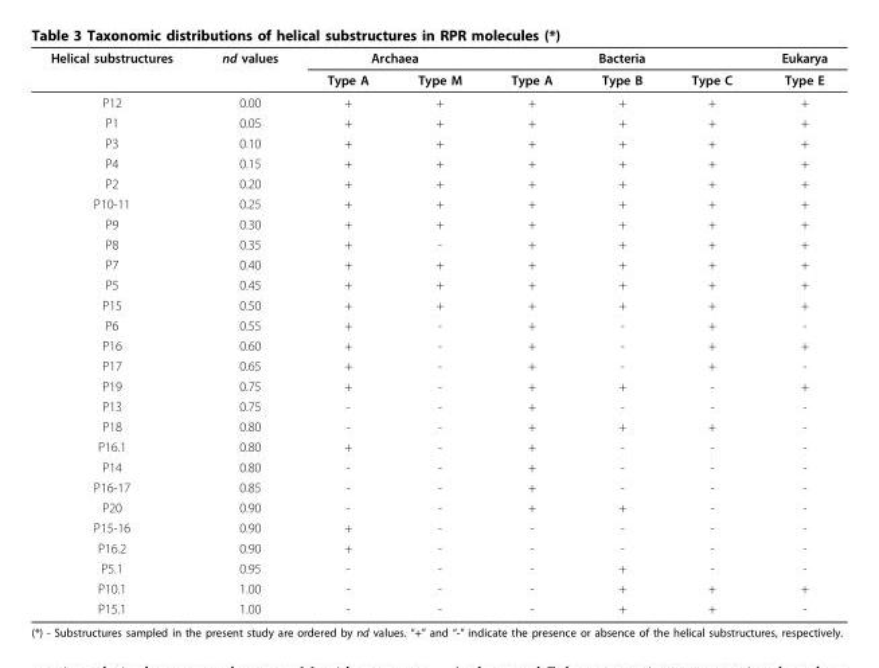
<table><thead><tr><td rowspan="2">Helical substructures</td><td rowspan="2">nd values</td><td colspan="2">Archaea</td><td colspan="3">Bacteria</td><td rowspan="2">Eukarya Type E</td></tr><tr><td>Type A</td><td>Type M</td><td>Type A</td><td>Type B</td><td>Type C</td></tr></thead><tbody><tr><td>P12</td><td>0.00</td><td>+</td><td>+</td><td>+</td><td>+</td><td>+</td><td>+</td></tr><tr><td>P1</td><td>0.05</td><td>+</td><td>+</td><td>+</td><td>+</td><td>+</td><td>+</td></tr><tr><td>P3</td><td>0.10</td><td>+</td><td>+</td><td>+</td><td>+</td><td>+</td><td>+</td></tr><tr><td>P4</td><td>0.15</td><td>+</td><td>+</td><td>+</td><td>+</td><td>+</td><td>+</td></tr><tr><td>P2</td><td>0.20</td><td>+</td><td>+</td><td>+</td><td>+</td><td>+</td><td>+</td></tr><tr><td>P10-11</td><td>0.25</td><td>+</td><td>+</td><td>+</td><td>+</td><td>+</td><td>+</td></tr><tr><td>P9</td><td>0.30</td><td>+</td><td>+</td><td>+</td><td>+</td><td>+</td><td>+</td></tr><tr><td>P8</td><td>0.35</td><td>+</td><td>-</td><td>+</td><td>+</td><td>+</td><td>+</td></tr><tr><td>P7</td><td>0.40</td><td>+</td><td>+</td><td>+</td><td>+</td><td>+</td><td>+</td></tr><tr><td>P5</td><td>0.45</td><td>+</td><td>+</td><td>+</td><td>+</td><td>+</td><td>+</td></tr><tr><td>P15</td><td>0.50</td><td>+</td><td>+</td><td>+</td><td>+</td><td>+</td><td>+</td></tr><tr><td>P6</td><td>0.55</td><td>+</td><td>-</td><td>+</td><td>-</td><td>+</td><td>-</td></tr><tr><td>P16</td><td>0.60</td><td>+</td><td>-</td><td>+</td><td>-</td><td>+</td><td>+</td></tr><tr><td>P17</td><td>0.65</td><td>+</td><td>-</td><td>+</td><td>-</td><td>+</td><td>-</td></tr><tr><td>P19</td><td>0.75</td><td>+</td><td>-</td><td>+</td><td>+</td><td>-</td><td>+</td></tr><tr><td>P13</td><td>0.75</td><td>-</td><td>-</td><td>+</td><td>-</td><td>-</td><td>-</td></tr><tr><td>P18</td><td>0.80</td><td>-</td><td>-</td><td>+</td><td>+</td><td>+</td><td>-</td></tr><tr><td>P16.1</td><td>0.80</td><td>+</td><td>-</td><td>+</td><td>-</td><td>-</td><td>-</td></tr><tr><td>P14</td><td>0.80</td><td>-</td><td>-</td><td>+</td><td>-</td><td>-</td><td>-</td></tr><tr><td>P16-17</td><td>0.85</td><td>-</td><td>-</td><td>+</td><td>-</td><td>-</td><td>-</td></tr><tr><td>P20</td><td>0.90</td><td>-</td><td>-</td><td>+</td><td>+</td><td>-</td><td>-</td></tr><tr><td>P15-16</td><td>0.90</td><td>+</td><td>-</td><td>-</td><td>-</td><td>-</td><td>-</td></tr><tr><td>P16.2</td><td>0.90</td><td>+</td><td>-</td><td>-</td><td>-</td><td>-</td><td>-</td></tr><tr><td>P5.1</td><td>0.95</td><td>-</td><td>-</td><td>-</td><td>+</td><td>-</td><td>-</td></tr><tr><td>P10.1</td><td>1.00</td><td>-</td><td>-</td><td>-</td><td>+</td><td>+</td><td>+</td></tr><tr><td>P15.1</td><td>1.00</td><td>-</td><td>-</td><td>-</td><td>+</td><td>+</td><td>-</td></tr></tbody></table>